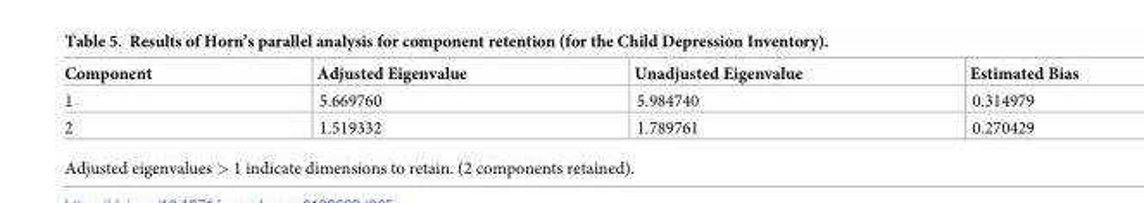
<table><thead><tr><td>Component</td><td>Adjusted Eigenvalue</td><td>Unadjusted Eigenvalue</td><td>Estimated Bias</td></tr></thead><tbody><tr><td>1</td><td>5.669760</td><td>5.984740</td><td>0.314979</td></tr><tr><td>2</td><td>1.519332</td><td>1.789761</td><td>0.270429</td></tr></tbody></table>